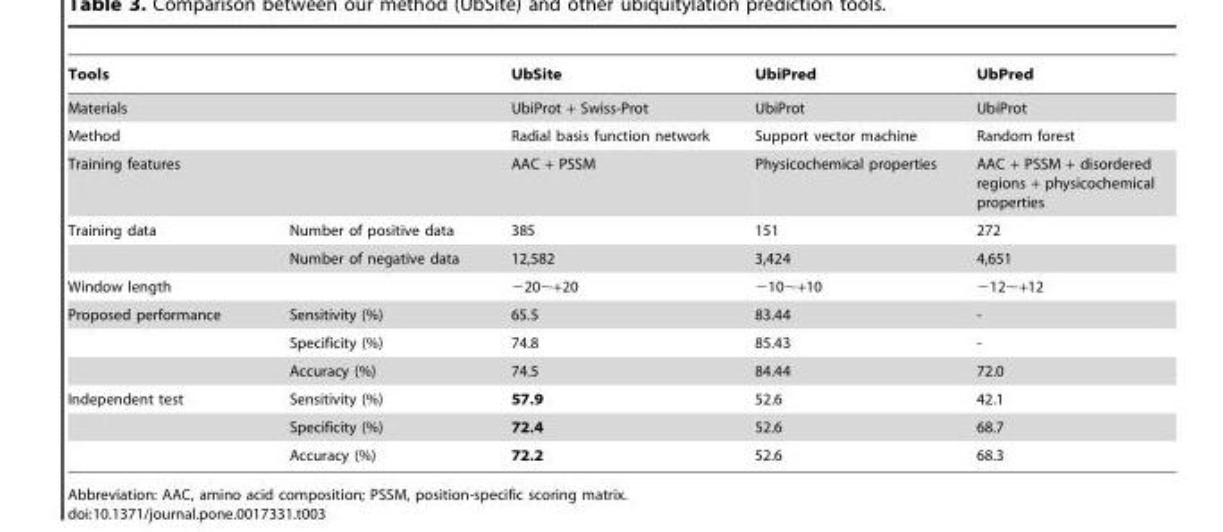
<table><thead><tr><td colspan="2">Tools</td><td>UbSite</td><td>UbiPred</td><td>UbPred</td></tr></thead><tbody><tr><td colspan="2">Materials</td><td>UbiProt + Swiss-Prot</td><td>UbiProt</td><td>UbiProt</td></tr><tr><td colspan="2">Method</td><td>Radial basis function network</td><td>Support vector machine</td><td>Random forest</td></tr><tr><td colspan="2">Training features</td><td>AAC + PSSM</td><td>Physicochemical properties</td><td>AAC + PSSM + disordered regions + physicochemical properties</td></tr><tr><td rowspan="2">Training data</td><td>Number of positive data</td><td>385</td><td>151</td><td>272</td></tr><tr><td>Number of negative data</td><td>12,582</td><td>3,424</td><td>4,651</td></tr><tr><td colspan="2">Window length</td><td>−20∼+20</td><td>−10∼+10</td><td>−12∼+12</td></tr><tr><td rowspan="3">Proposed performance</td><td>Sensitivity (%)</td><td>65.5</td><td>83.44</td><td>-</td></tr><tr><td>Specificity (%)</td><td>74.8</td><td>85.43</td><td>-</td></tr><tr><td>Accuracy (%)</td><td>74.5</td><td>84.44</td><td>72.0</td></tr><tr><td rowspan="3">Independent test</td><td>Sensitivity (%)</td><td>57.9</td><td>52.6</td><td>42.1</td></tr><tr><td>Specificity (%)</td><td>72.4</td><td>52.6</td><td>68.7</td></tr><tr><td>Accuracy (%)</td><td>72.2</td><td>52.6</td><td>68.3</td></tr></tbody></table>